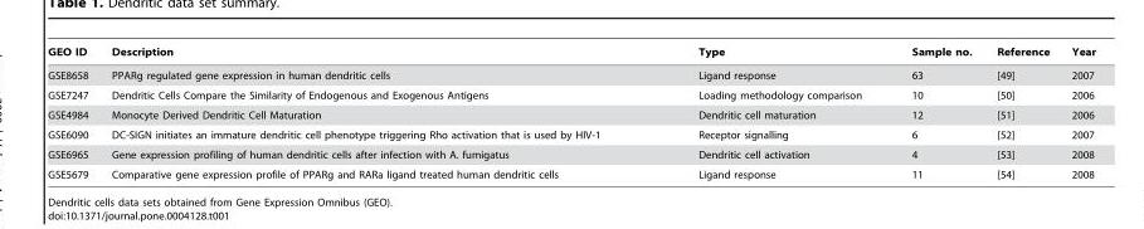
<table><thead><tr><td>GEO ID</td><td>Description</td><td>Type</td><td>Sample no.</td><td>Reference</td><td>Year</td></tr></thead><tbody><tr><td>GSE8658</td><td>PPARg regulated gene expression in human dendritic cells</td><td>Ligand response</td><td>63</td><td>[49]</td><td>2007</td></tr><tr><td>GSE7247</td><td>Dendritic Cells Compare the Similarity of Endogenous and Exogenous Antigens</td><td>Loading methodology comparison</td><td>10</td><td>[50]</td><td>2006</td></tr><tr><td>GSE4984</td><td>Monocyte Derived Dendritic Cell Maturation</td><td>Dendritic cell maturation</td><td>12</td><td>[51]</td><td>2006</td></tr><tr><td>GSE6090</td><td>DC-SIGN initiates an immature dendritic cell phenotype triggering Rho activation that is used by HIV-1</td><td>Receptor signalling</td><td>6</td><td>[52]</td><td>2007</td></tr><tr><td>GSE6965</td><td>Gene expression profiling of human dendritic cells after infection with A. fumigatus</td><td>Dendritic cell activation</td><td>4</td><td>[53]</td><td>2008</td></tr><tr><td>GSE5679</td><td>Comparative gene expression profile of PPARg and RARa ligand treated human dendritic cells</td><td>Ligand response</td><td>11</td><td>[54]</td><td>2008</td></tr></tbody></table>